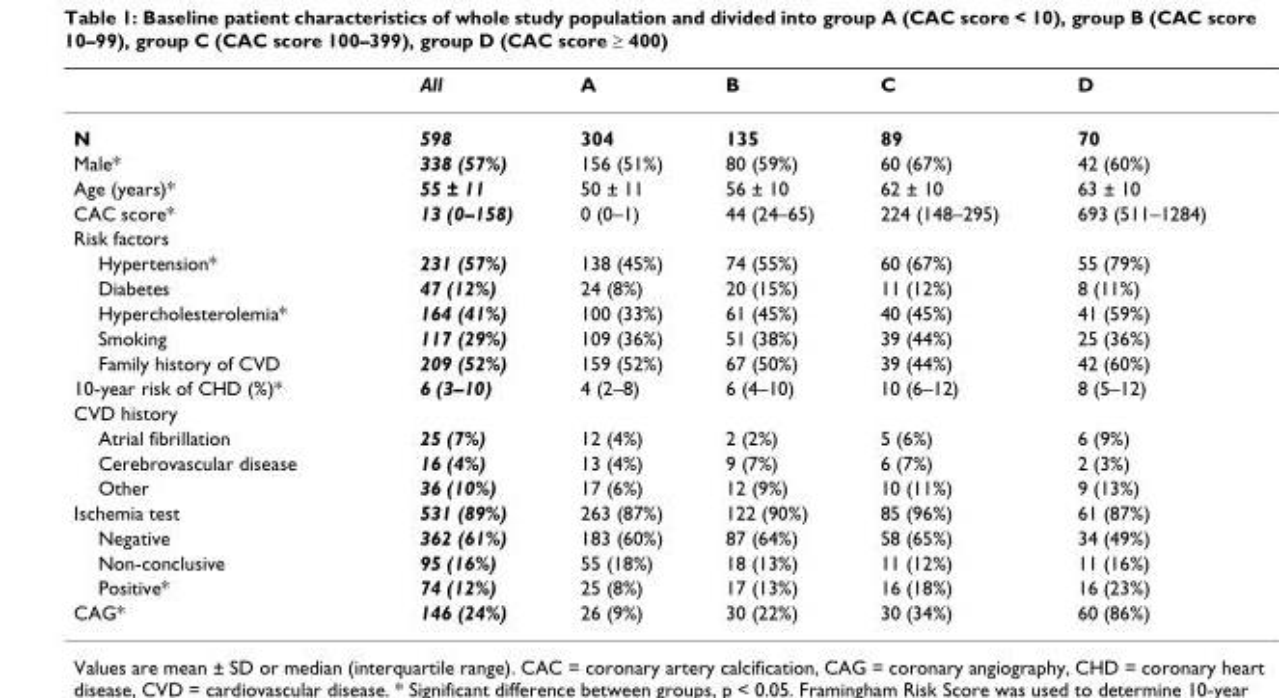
<table><thead><tr><td></td><td>All</td><td>A</td><td>B</td><td>C</td><td>D</td></tr></thead><tbody><tr><td>N</td><td>598</td><td>304</td><td>135</td><td>89</td><td>70</td></tr><tr><td>Male*</td><td>338 (57%)</td><td>156 (51%)</td><td>80 (59%)</td><td>60 (67%)</td><td>42 (60%)</td></tr><tr><td>Age (years)*</td><td>55 ± 11</td><td>50 ± 11</td><td>56 ± 10</td><td>62 ± 10</td><td>63 ± 10</td></tr><tr><td>CAC score*</td><td>13 (0–158)</td><td>0 (0–1)</td><td>44 (24–65)</td><td>224 (148–295)</td><td>693 (511–1284)</td></tr><tr><td colspan="6">Risk factors</td></tr><tr><td>Hypertension*</td><td>231 (57%)</td><td>138 (45%)</td><td>74 (55%)</td><td>60 (67%)</td><td>55 (79%)</td></tr><tr><td>Diabetes</td><td>47 (12%)</td><td>24 (8%)</td><td>20 (15%)</td><td>11 (12%)</td><td>8 (11%)</td></tr><tr><td>Hypercholesterolemia*</td><td>164 (41%)</td><td>100 (33%)</td><td>61 (45%)</td><td>40 (45%)</td><td>41 (59%)</td></tr><tr><td>Smoking</td><td>117 (29%)</td><td>109 (36%)</td><td>51 (38%)</td><td>39 (44%)</td><td>25 (36%)</td></tr><tr><td>Family history of CVD</td><td>209 (52%)</td><td>159 (52%)</td><td>67 (50%)</td><td>39 (44%)</td><td>42 (60%)</td></tr><tr><td>10-year risk of CHD (%)*</td><td>6 (3–10)</td><td>4 (2–8)</td><td>6 (4–10)</td><td>10 (6–12)</td><td>8 (5–12)</td></tr><tr><td colspan="6">CVD history</td></tr><tr><td>Atrial fibrillation</td><td>25 (7%)</td><td>12 (4%)</td><td>2 (2%)</td><td>5 (6%)</td><td>6 (9%)</td></tr><tr><td>Cerebrovascular disease</td><td>16 (4%)</td><td>13 (4%)</td><td>9 (7%)</td><td>6 (7%)</td><td>2 (3%)</td></tr><tr><td>Other</td><td>36 (10%)</td><td>17 (6%)</td><td>12 (9%)</td><td>10 (11%)</td><td>9 (13%)</td></tr><tr><td>Ischemia test</td><td>531 (89%)</td><td>263 (87%)</td><td>122 (90%)</td><td>85 (96%)</td><td>61 (87%)</td></tr><tr><td>Negative</td><td>362 (61%)</td><td>183 (60%)</td><td>87 (64%)</td><td>58 (65%)</td><td>34 (49%)</td></tr><tr><td>Non-conclusive</td><td>95 (16%)</td><td>55 (18%)</td><td>18 (13%)</td><td>11 (12%)</td><td>11 (16%)</td></tr><tr><td>Positive*</td><td>74 (12%)</td><td>25 (8%)</td><td>17 (13%)</td><td>16 (18%)</td><td>16 (23%)</td></tr><tr><td>CAG*</td><td>146 (24%)</td><td>26 (9%)</td><td>30 (22%)</td><td>30 (34%)</td><td>60 (86%)</td></tr></tbody></table>